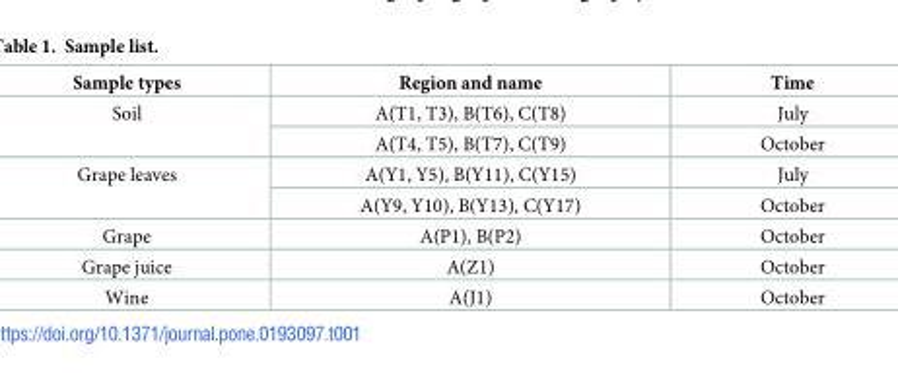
<table><thead><tr><td>Sample types</td><td>Region and name</td><td>Time</td></tr></thead><tbody><tr><td rowspan="2">Soil</td><td>A(T1, T3), B(T6), C(T8)</td><td>July</td></tr><tr><td>A(T4, T5), B(T7), C(T9)</td><td>October</td></tr><tr><td rowspan="2">Grape leaves</td><td>A(Y1, Y5), B(Y11), C(Y15)</td><td>July</td></tr><tr><td>A(Y9, Y10), B(Y13), C(Y17)</td><td>October</td></tr><tr><td>Grape</td><td>A(P1), B(P2)</td><td>October</td></tr><tr><td>Grape juice</td><td>A(Z1)</td><td>October</td></tr><tr><td>Wine</td><td>A(J1)</td><td>October</td></tr></tbody></table>